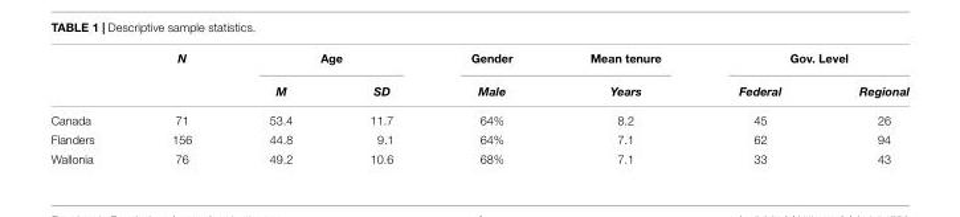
<table><thead><tr><td rowspan="2"></td><td rowspan="2">N</td><td colspan="2">Age</td><td rowspan="2">Gender Male</td><td rowspan="2">Mean tenure Years</td><td colspan="2">Gov. Level</td></tr><tr><td>M</td><td>SD</td><td>Federal</td><td>Regional</td></tr></thead><tbody><tr><td>Canada</td><td>71</td><td>53.4</td><td>11.7</td><td>64%</td><td>8.2</td><td>45</td><td>26</td></tr><tr><td>Flanders</td><td>156</td><td>44.8</td><td>9.1</td><td>64%</td><td>7.1</td><td>62</td><td>94</td></tr><tr><td>Wallonia</td><td>76</td><td>49.2</td><td>10.6</td><td>68%</td><td>7.1</td><td>33</td><td>43</td></tr></tbody></table>